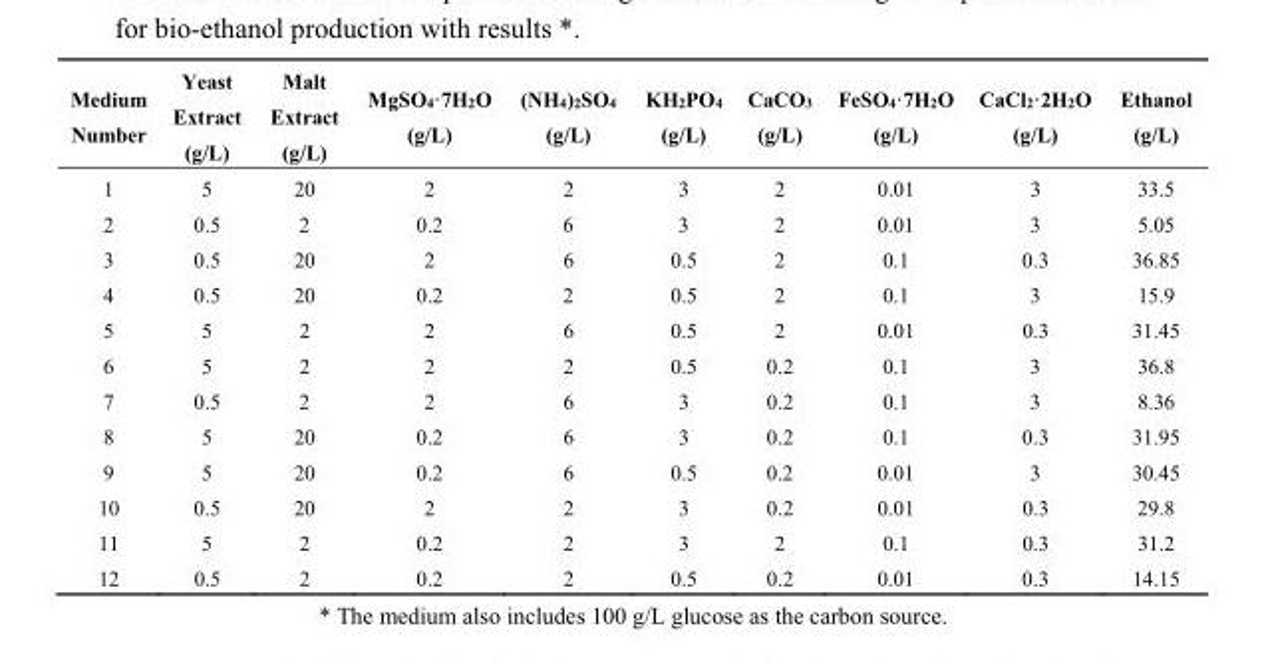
<table><thead><tr><td>Medium Number</td><td>Yeast Extract (g/L)</td><td>Malt Extract (g/L)</td><td>MgSO<sub>4</sub>·7H<sub>2</sub>O (g/L)</td><td>(NH<sub>4</sub>)<sub>2</sub>SO<sub>4</sub> (g/L)</td><td>KH<sub>2</sub>PO<sub>4</sub> (g/L)</td><td>CaCO<sub>3</sub> (g/L)</td><td>FeSO<sub>4</sub>·7H<sub>2</sub>O (g/L)</td><td>CaCl<sub>2</sub>·2H<sub>2</sub>O (g/L)</td><td>Ethanol (g/L)</td></tr></thead><tbody><tr><td>1</td><td>5</td><td>20</td><td>2</td><td>2</td><td>3</td><td>2</td><td>0.01</td><td>3</td><td>33.5</td></tr><tr><td>2</td><td>0.5</td><td>2</td><td>0.2</td><td>6</td><td>3</td><td>2</td><td>0.01</td><td>3</td><td>5.05</td></tr><tr><td>3</td><td>0.5</td><td>20</td><td>2</td><td>6</td><td>0.5</td><td>2</td><td>0.1</td><td>0.3</td><td>36.85</td></tr><tr><td>4</td><td>0.5</td><td>20</td><td>0.2</td><td>2</td><td>0.5</td><td>2</td><td>0.1</td><td>3</td><td>15.9</td></tr><tr><td>5</td><td>5</td><td>2</td><td>2</td><td>6</td><td>0.5</td><td>2</td><td>0.01</td><td>0.3</td><td>31.45</td></tr><tr><td>6</td><td>5</td><td>2</td><td>2</td><td>2</td><td>0.5</td><td>0.2</td><td>0.1</td><td>3</td><td>36.8</td></tr><tr><td>7</td><td>0.5</td><td>2</td><td>2</td><td>6</td><td>3</td><td>0.2</td><td>0.1</td><td>3</td><td>8.36</td></tr><tr><td>8</td><td>5</td><td>20</td><td>0.2</td><td>6</td><td>3</td><td>0.2</td><td>0.1</td><td>0.3</td><td>31.95</td></tr><tr><td>9</td><td>5</td><td>20</td><td>0.2</td><td>6</td><td>0.5</td><td>0.2</td><td>0.01</td><td>3</td><td>30.45</td></tr><tr><td>10</td><td>0.5</td><td>20</td><td>2</td><td>2</td><td>3</td><td>0.2</td><td>0.01</td><td>0.3</td><td>29.8</td></tr><tr><td>11</td><td>5</td><td>2</td><td>0.2</td><td>2</td><td>3</td><td>2</td><td>0.1</td><td>0.3</td><td>31.2</td></tr><tr><td>12</td><td>0.5</td><td>2</td><td>0.2</td><td>2</td><td>0.5</td><td>0.2</td><td>0.01</td><td>0.3</td><td>14.15</td></tr></tbody></table>